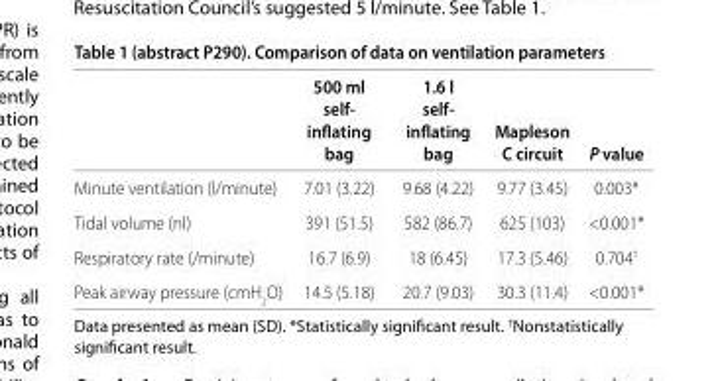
<table><thead><tr><td></td><td>500 ml self- infl ating bag</td><td>1.6 l self- infl ating bag</td><td>Mapleson C circuit</td><td>P value</td></tr></thead><tbody><tr><td>Minute ventilation (l/minute)</td><td>7.01 (3.22)</td><td>9.68 (4.22)</td><td>9.77 (3.45)</td><td>0.003*</td></tr><tr><td>Tidal volume (nl)</td><td>391 (51.5)</td><td>582 (86.7)</td><td>625 (103)</td><td>&lt;0.001*</td></tr><tr><td>Respiratory rate (/minute)</td><td>16.7 (6.9)</td><td>18 (6.45)</td><td>17.3 (5.46)</td><td>0.704<sup>†</sup></td></tr><tr><td>Peak airway pressure (cmH<sub>2</sub>O)</td><td>14.5 (5.18)</td><td>20.7 (9.03)</td><td>30.3 (11.4)</td><td>&lt;0.001*</td></tr></tbody></table>